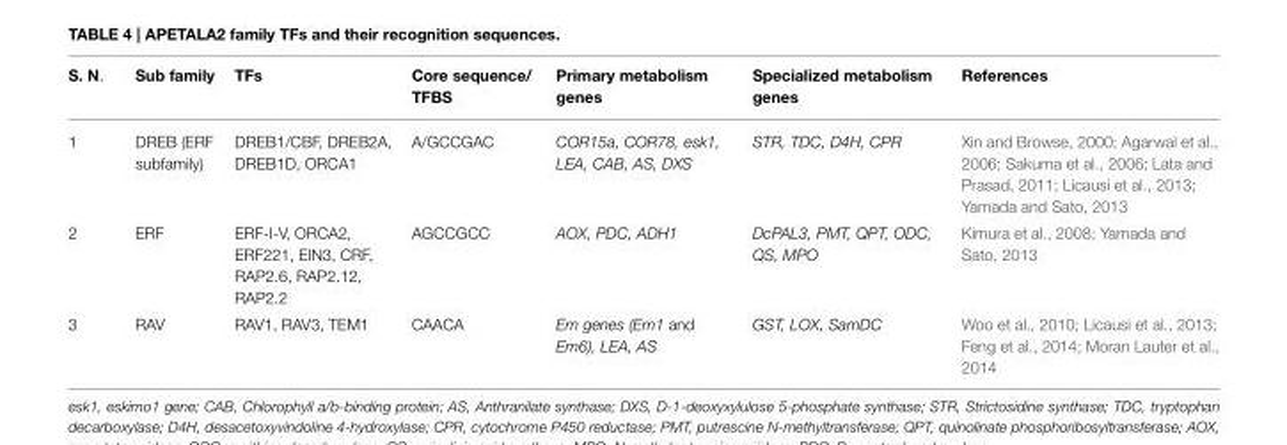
<table><thead><tr><td>S. N.</td><td>Sub family</td><td>TFs</td><td>Core sequence/ TFBS</td><td>Primary metabolism genes</td><td>Specialized metabolism genes</td><td>References</td></tr></thead><tbody><tr><td>1</td><td>DREB (ERF subfamily)</td><td>DREB1/CBF, DREB2A, DREB1D, ORCA1</td><td>A/GCCGAC</td><td>COR15a, COR78, esk1, LEA, CAB, AS, DXS</td><td>STR, TDC, D4H, CPR</td><td>Xin and Browse, 2000; Agarwal et al., 2006; Sakuma et al., 2006; Lata and Prasad, 2011; Licausi et al., 2013; Yamada and Sato, 2013</td></tr><tr><td>2</td><td>ERF</td><td>ERF-I-V, ORCA2, ERF221, EIN3, CRF, RAP2.6, RAP2.12, RAP2.2</td><td>AGCCGCC</td><td>AOX, PDC, ADH1</td><td>DcPAL3, PMT, QPT, ODC, QS, MPO</td><td>Kimura et al., 2008; Yamada and Sato, 2013</td></tr><tr><td>3</td><td>RAV</td><td>RAV1, RAV3, TEM1</td><td>CAACA</td><td>Em genes (Em1 and Em6), LEA, AS</td><td>GST, LOX, SamDC</td><td>Woo et al., 2010; Licausi et al., 2013; Feng et al., 2014; Moran Lauter et al., 2014</td></tr></tbody></table>